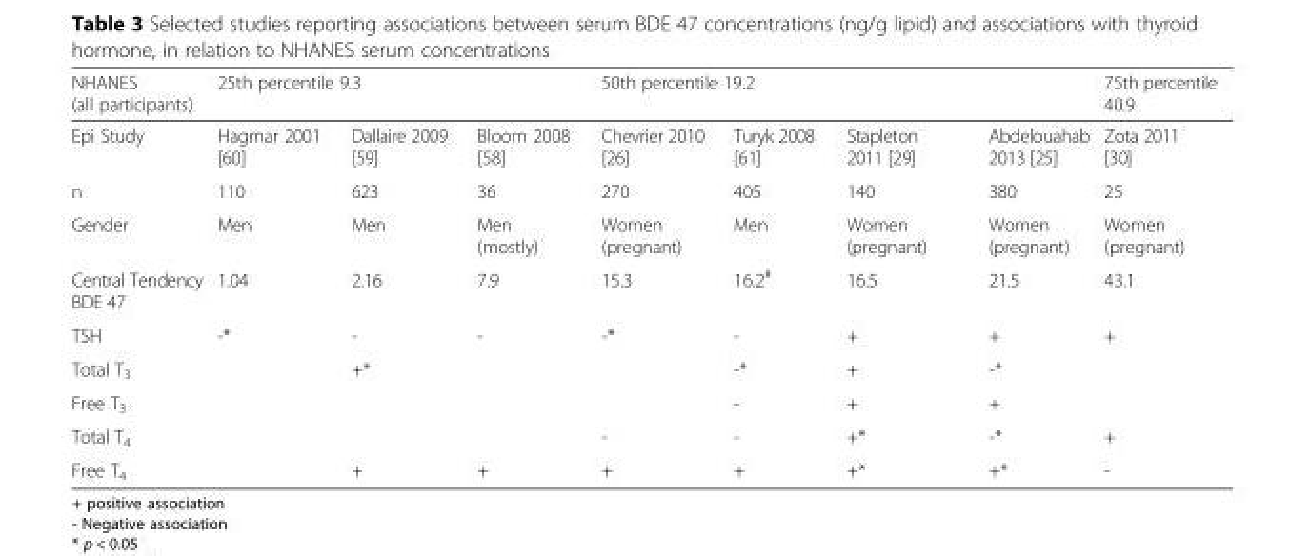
<table><thead><tr><td rowspan="2">NHANES (all participants) Epi Study</td><td colspan="3">25th percentile 9.3</td><td colspan="4">50th percentile 19.2</td><td rowspan="2">75th percentile 40.9 Zota 2011 [30]</td></tr><tr><td>Hagmar 2001 [60]</td><td>Dallaire 2009 [59]</td><td>Bloom 2008 [58]</td><td>Chevrier 2010 [26]</td><td>Turyk 2008 [61]</td><td>Stapleton 2011 [29]</td><td>Abdelouahab 2013 [25]</td></tr></thead><tbody><tr><td>n</td><td>110</td><td>623</td><td>36</td><td>270</td><td>405</td><td>140</td><td>380</td><td>25</td></tr><tr><td>Gender</td><td>Men</td><td>Men</td><td>Men (mostly)</td><td>Women (pregnant)</td><td>Men</td><td>Women (pregnant)</td><td>Women (pregnant)</td><td>Women (pregnant)</td></tr><tr><td>Central Tendency BDE 47</td><td>1.04</td><td>2.16</td><td>7.9</td><td>15.3</td><td>16.2<sup>#</sup></td><td>16.5</td><td>21.5</td><td>43.1</td></tr><tr><td>TSH</td><td>-*</td><td>-</td><td>-</td><td>-*</td><td>-</td><td>+</td><td>+</td><td>+</td></tr><tr><td>Total T<sub>3</sub></td><td></td><td>+*</td><td></td><td></td><td>-*</td><td>+</td><td>-*</td><td></td></tr><tr><td>Free T<sub>3</sub></td><td></td><td></td><td></td><td></td><td>-</td><td>+</td><td>+</td><td></td></tr><tr><td>Total T<sub>4</sub></td><td></td><td></td><td></td><td>-</td><td>-</td><td>+*</td><td>-*</td><td>+</td></tr><tr><td>Free T<sub>4</sub></td><td></td><td>+</td><td>+</td><td>+</td><td>+</td><td>+*</td><td>+*</td><td>-</td></tr></tbody></table>